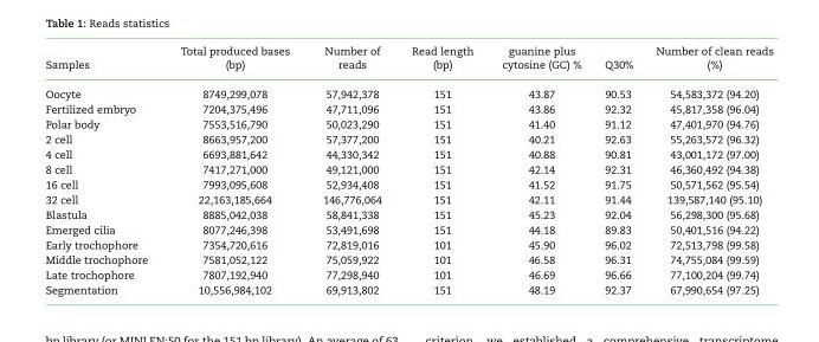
<table><thead><tr><td>Samples</td><td>Total produced bases (bp)</td><td>Number of reads</td><td>Read length (bp)</td><td>guanine plus cytosine (GC) %</td><td>Q30%</td><td>Number of clean reads (%)</td></tr></thead><tbody><tr><td>Oocyte</td><td>8749,299,078</td><td>57,942,378</td><td>151</td><td>43.87</td><td>90.53</td><td>54,583,372 (94.20)</td></tr><tr><td>Fertilized embryo</td><td>7204,375,496</td><td>47,711,096</td><td>151</td><td>43.86</td><td>92.32</td><td>45,817,358 (96.04)</td></tr><tr><td>Polar body</td><td>7553,516,790</td><td>50,023,290</td><td>151</td><td>41.40</td><td>91.12</td><td>47,401,970 (94.76)</td></tr><tr><td>2 cell</td><td>8663,957,200</td><td>57,377,200</td><td>151</td><td>40.21</td><td>92.63</td><td>55,263,572 (96.32)</td></tr><tr><td>4 cell</td><td>6693,881,642</td><td>44,330,342</td><td>151</td><td>40.88</td><td>90.81</td><td>43,001,172 (97.00)</td></tr><tr><td>8 cell</td><td>7417,271,000</td><td>49,121,000</td><td>151</td><td>42.14</td><td>92.31</td><td>46,360,492 (94.38)</td></tr><tr><td>16 cell</td><td>7993,095,608</td><td>52,934,408</td><td>151</td><td>41.52</td><td>91.75</td><td>50,571,562 (95.54)</td></tr><tr><td>32 cell</td><td>22,163,185,664</td><td>146,776,064</td><td>151</td><td>42.11</td><td>91.44</td><td>139,587,140 (95.10)</td></tr><tr><td>Blastula</td><td>8885,042,038</td><td>58,841,338</td><td>151</td><td>45.23</td><td>92.04</td><td>56,298,300 (95.68)</td></tr><tr><td>Emerged cilia</td><td>8077,246,398</td><td>53,491,698</td><td>151</td><td>44.18</td><td>89.83</td><td>50,401,516 (94.22)</td></tr><tr><td>Early trochophore</td><td>7354,720,616</td><td>72,819,016</td><td>101</td><td>45.90</td><td>96.02</td><td>72,513,798 (99.58)</td></tr><tr><td>Middle trochophore</td><td>7581,052,122</td><td>75,059,922</td><td>101</td><td>46.58</td><td>96.31</td><td>74,755,084 (99.59)</td></tr><tr><td>Late trochophore</td><td>7807,192,940</td><td>77,298,940</td><td>101</td><td>46.69</td><td>96.66</td><td>77,100,204 (99.74)</td></tr><tr><td>Segmentation</td><td>10,556,984,102</td><td>69,913,802</td><td>151</td><td>48.19</td><td>92.37</td><td>67,990,654 (97.25)</td></tr></tbody></table>